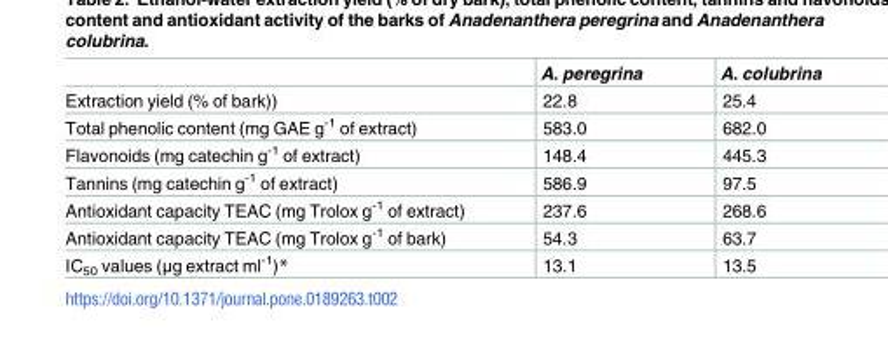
<table><thead><tr><td></td><td>A. peregrina</td><td>A. colubrina</td></tr></thead><tbody><tr><td>Extraction yield (% of bark))</td><td>22.8</td><td>25.4</td></tr><tr><td>Total phenolic content (mg GAE g<sup>-1</sup> of extract)</td><td>583.0</td><td>682.0</td></tr><tr><td>Flavonoids (mg catechin g<sup>-1</sup> of extract)</td><td>148.4</td><td>445.3</td></tr><tr><td>Tannins (mg catechin g<sup>-1</sup> of extract)</td><td>586.9</td><td>97.5</td></tr><tr><td>Antioxidant capacity TEAC (mg Trolox g<sup>-1</sup> of extract)</td><td>237.6</td><td>268.6</td></tr><tr><td>Antioxidant capacity TEAC (mg Trolox g<sup>-1</sup> of bark)</td><td>54.3</td><td>63.7</td></tr><tr><td>IC<sub>50</sub> values (μg extract ml<sup>-1</sup>)*</td><td>13.1</td><td>13.5</td></tr></tbody></table>